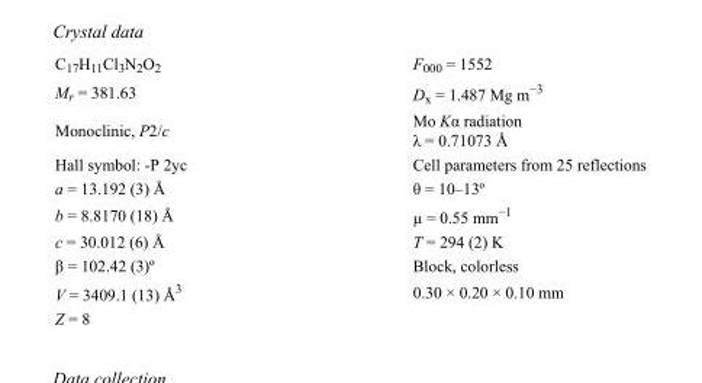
<table><tbody><tr><td>C<sub>17</sub>H<sub>11</sub>Cl<sub>3</sub>N<sub>2</sub>O<sub>2</sub></td><td>F<sub>000</sub> = 1552</td></tr><tr><td>M<sub>r</sub> = 381.63</td><td>D<sub>x</sub> = 1.487 Mg m<sup>−3</sup></td></tr><tr><td>Monoclinic, P2/c</td><td>Mo Kα radiation λ = 0.71073 Å</td></tr><tr><td>Hall symbol: -P 2yc</td><td>Cell parameters from 25 reflections</td></tr><tr><td>a = 13.192 (3) Å</td><td>θ = 10–13º</td></tr><tr><td>b = 8.8170 (18) Å</td><td>µ = 0.55 mm<sup>−1</sup></td></tr><tr><td>c = 30.012 (6) Å</td><td>T = 294 (2) K</td></tr><tr><td>β = 102.42 (3)º</td><td>Block, colorless</td></tr><tr><td>V = 3409.1 (13) Å<sup>3</sup></td><td>0.30 × 0.20 × 0.10 mm</td></tr><tr><td>Z = 8</td><td></td></tr></tbody></table>